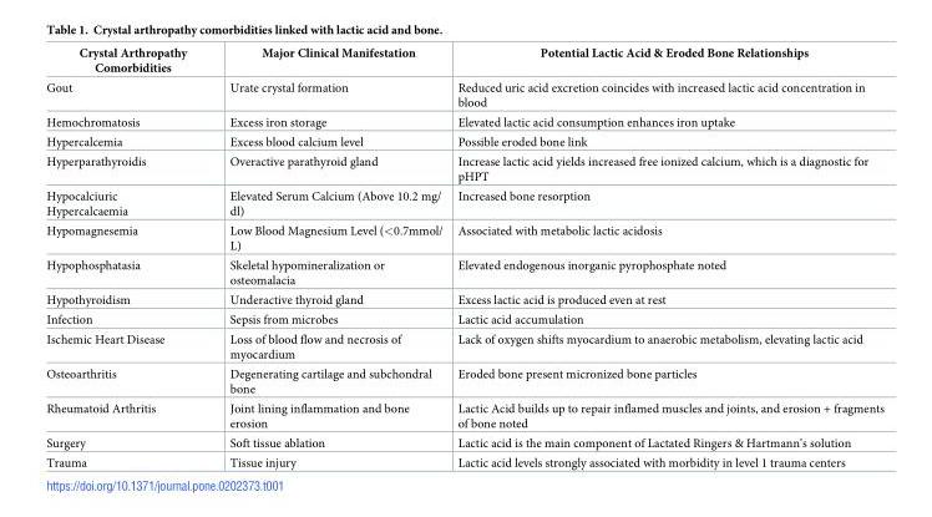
<table><thead><tr><td>Crystal Arthropathy Comorbidities</td><td>Major Clinical Manifestation</td><td>Potential Lactic Acid &amp; Eroded Bone Relationships</td></tr></thead><tbody><tr><td>Gout</td><td>Urate crystal formation</td><td>Reduced uric acid excretion coincides with increased lactic acid concentration in blood</td></tr><tr><td>Hemochromatosis</td><td>Excess iron storage</td><td>Elevated lactic acid consumption enhances iron uptake</td></tr><tr><td>Hypercalcemia</td><td>Excess blood calcium level</td><td>Possible eroded bone link</td></tr><tr><td>Hyperparathyroidis</td><td>Overactive parathyroid gland</td><td>Increase lactic acid yields increased free ionized calcium, which is a diagnostic for pHPT</td></tr><tr><td>Hypocalciuric Hypercalcaemia</td><td>Elevated Serum Calcium (Above 10.2 mg/ dl)</td><td>Increased bone resorption</td></tr><tr><td>Hypomagnesemia</td><td>Low Blood Magnesium Level (&lt;0.7mmol/ L)</td><td>Associated with metabolic lactic acidosis</td></tr><tr><td>Hypophosphatasia</td><td>Skeletal hypomineralization or osteomalacia</td><td>Elevated endogenous inorganic pyrophosphate noted</td></tr><tr><td>Hypothyroidism</td><td>Underactive thyroid gland</td><td>Excess lactic acid is produced even at rest</td></tr><tr><td>Infection</td><td>Sepsis from microbes</td><td>Lactic acid accumulation</td></tr><tr><td>Ischemic Heart Disease</td><td>Loss of blood flow and necrosis of myocardium</td><td>Lack of oxygen shifts myocardium to anaerobic metabolism, elevating lactic acid</td></tr><tr><td>Osteoarthritis</td><td>Degenerating cartilage and subchondral bone</td><td>Eroded bone present micronized bone particles</td></tr><tr><td>Rheumatoid Arthritis</td><td>Joint lining inflammation and bone erosion</td><td>Lactic Acid builds up to repair inflamed muscles and joints, and erosion + fragments of bone noted</td></tr><tr><td>Surgery</td><td>Soft tissue ablation</td><td>Lactic acid is the main component of Lactated Ringers &amp; Hartmann’s solution</td></tr><tr><td>Trauma</td><td>Tissue injury</td><td>Lactic acid levels strongly associated with morbidity in level 1 trauma centers</td></tr></tbody></table>